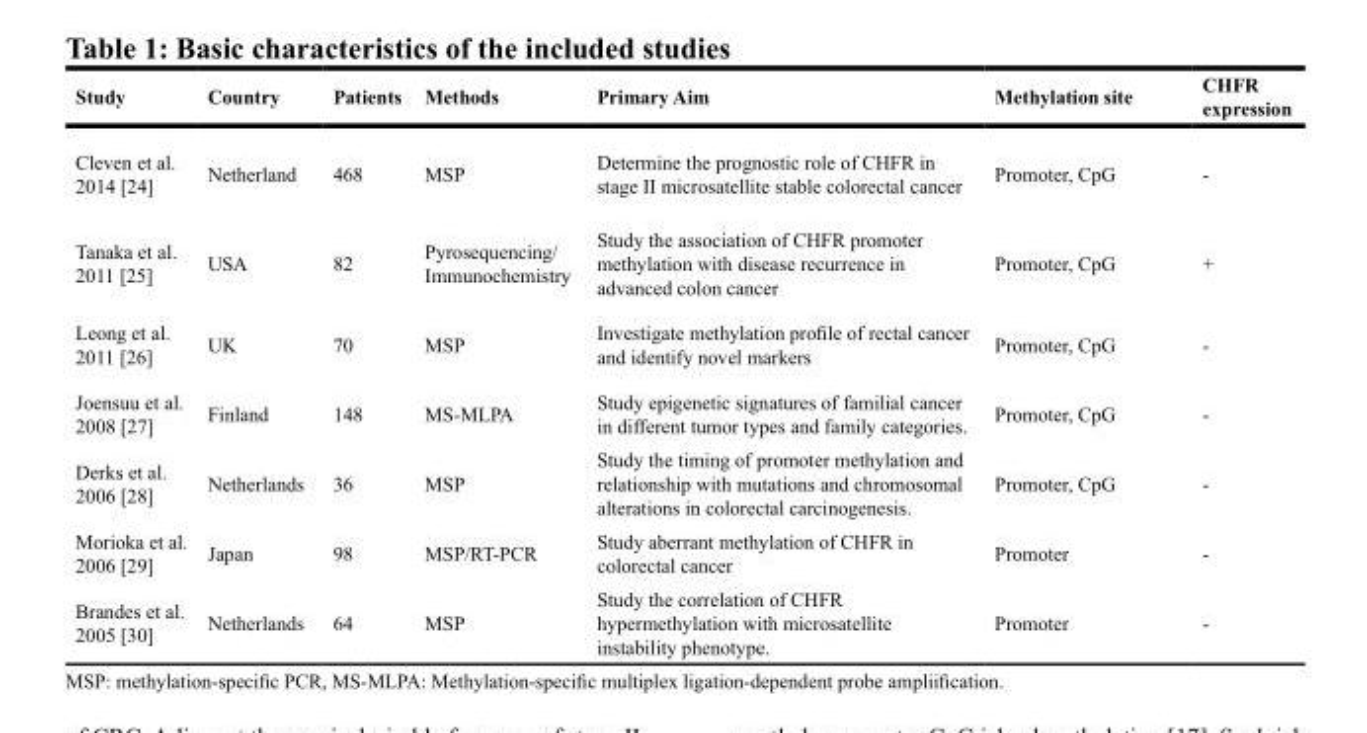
<table><thead><tr><td>Study</td><td>Country</td><td>Patients</td><td>Methods</td><td>Primary Aim</td><td>Methylation site</td><td>CHFR expression</td></tr></thead><tbody><tr><td>Cleven et al. 2014 [24]</td><td>Netherland</td><td>468</td><td>MSP</td><td>Determine the prognostic role of CHFR in stage II microsatellite stable colorectal cancer</td><td>Promoter, CpG</td><td>-</td></tr><tr><td>Tanaka et al. 2011 [25]</td><td>USA</td><td>82</td><td>Pyrosequencing/ Immunochemistry</td><td>Study the association of CHFR promoter methylation with disease recurrence in advanced colon cancer</td><td>Promoter, CpG</td><td>+</td></tr><tr><td>Leong et al. 2011 [26]</td><td>UK</td><td>70</td><td>MSP</td><td>Investigate methylation profile of rectal cancer and identify novel markers</td><td>Promoter, CpG</td><td>-</td></tr><tr><td>Joensuu et al. 2008 [27]</td><td>Finland</td><td>148</td><td>MS-MLPA</td><td>Study epigenetic signatures of familial cancer in different tumor types and family categories.</td><td>Promoter, CpG</td><td>-</td></tr><tr><td>Derks et al. 2006 [28]</td><td>Netherlands</td><td>36</td><td>MSP</td><td>Study the timing of promoter methylation and relationship with mutations and chromosomal alterations in colorectal carcinogenesis.</td><td>Promoter, CpG</td><td>-</td></tr><tr><td>Morioka et al. 2006 [29]</td><td>Japan</td><td>98</td><td>MSP/RT-PCR</td><td>Study aberrant methylation of CHFR in colorectal cancer</td><td>Promoter</td><td>-</td></tr><tr><td>Brandes et al. 2005 [30]</td><td>Netherlands</td><td>64</td><td>MSP</td><td>Study the correlation of CHFR hypermethylation with microsatellite instability phenotype.</td><td>Promoter</td><td>-</td></tr></tbody></table>